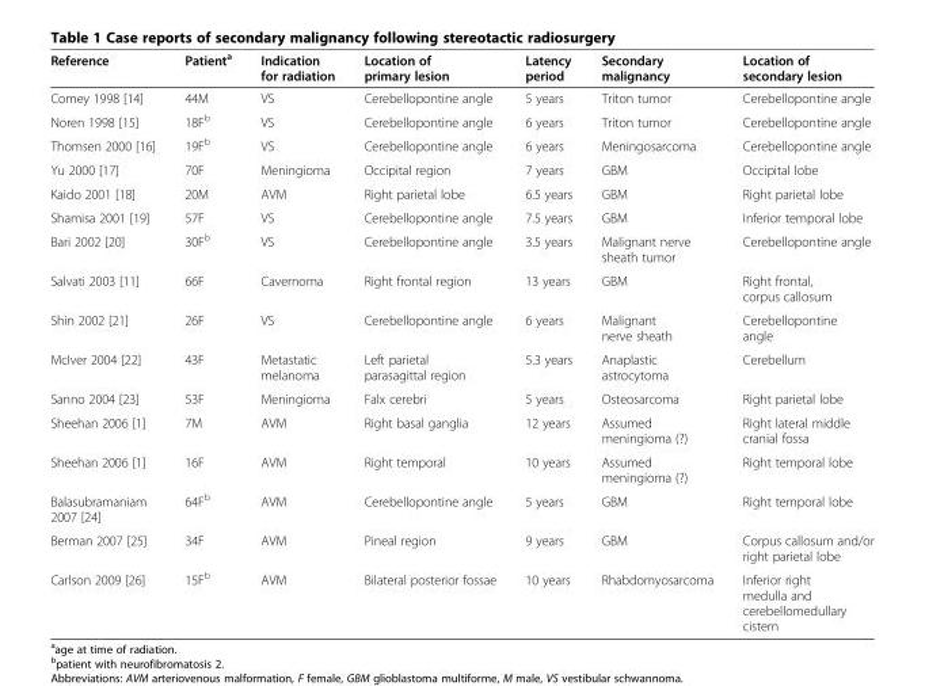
<table><thead><tr><td>Reference</td><td>Patient<sup>a</sup></td><td>Indication for radiation</td><td>Location of primary lesion</td><td>Latency period</td><td>Secondary malignancy</td><td>Location of secondary lesion</td></tr></thead><tbody><tr><td>Comey 1998 [14]</td><td>44M</td><td>VS</td><td>Cerebellopontine angle</td><td>5 years</td><td>Triton tumor</td><td>Cerebellopontine angle</td></tr><tr><td>Noren 1998 [15]</td><td>18F<sup>b</sup></td><td>VS</td><td>Cerebellopontine angle</td><td>6 years</td><td>Triton tumor</td><td>Cerebellopontine angle</td></tr><tr><td>Thomsen 2000 [16]</td><td>19F<sup>b</sup></td><td>VS</td><td>Cerebellopontine angle</td><td>6 years</td><td>Meningosarcoma</td><td>Cerebellopontine angle</td></tr><tr><td>Yu 2000 [17]</td><td>70F</td><td>Meningioma</td><td>Occipital region</td><td>7 years</td><td>GBM</td><td>Occipital lobe</td></tr><tr><td>Kaido 2001 [18]</td><td>20M</td><td>AVM</td><td>Right parietal lobe</td><td>6.5 years</td><td>GBM</td><td>Right parietal lobe</td></tr><tr><td>Shamisa 2001 [19]</td><td>57F</td><td>VS</td><td>Cerebellopontine angle</td><td>7.5 years</td><td>GBM</td><td>Inferior temporal lobe</td></tr><tr><td>Bari 2002 [20]</td><td>30F<sup>b</sup></td><td>VS</td><td>Cerebellopontine angle</td><td>3.5 years</td><td>Malignant nerve sheath tumor</td><td>Cerebellopontine angle</td></tr><tr><td>Salvati 2003 [11]</td><td>66F</td><td>Cavernoma</td><td>Right frontal region</td><td>13 years</td><td>GBM</td><td>Right frontal, corpus callosum</td></tr><tr><td>Shin 2002 [21]</td><td>26F</td><td>VS</td><td>Cerebellopontine angle</td><td>6 years</td><td>Malignant nerve sheath</td><td>Cerebellopontine angle</td></tr><tr><td>McIver 2004 [22]</td><td>43F</td><td>Metastatic melanoma</td><td>Left parietal parasagittal region</td><td>5.3 years</td><td>Anaplastic astrocytoma</td><td>Cerebellum</td></tr><tr><td>Sanno 2004 [23]</td><td>53F</td><td>Meningioma</td><td>Falx cerebri</td><td>5 years</td><td>Osteosarcoma</td><td>Right parietal lobe</td></tr><tr><td>Sheehan 2006 [1]</td><td>7M</td><td>AVM</td><td>Right basal ganglia</td><td>12 years</td><td>Assumed meningioma (?)</td><td>Right lateral middle cranial fossa</td></tr><tr><td>Sheehan 2006 [1]</td><td>16F</td><td>AVM</td><td>Right temporal</td><td>10 years</td><td>Assumed meningioma (?)</td><td>Right temporal lobe</td></tr><tr><td>Balasubramaniam 2007 [24]</td><td>64F<sup>b</sup></td><td>AVM</td><td>Cerebellopontine angle</td><td>5 years</td><td>GBM</td><td>Right temporal lobe</td></tr><tr><td>Berman 2007 [25]</td><td>34F</td><td>AVM</td><td>Pineal region</td><td>9 years</td><td>GBM</td><td>Corpus callosum and/or right parietal lobe</td></tr><tr><td>Carlson 2009 [26]</td><td>15F<sup>b</sup></td><td>AVM</td><td>Bilateral posterior fossae</td><td>10 years</td><td>Rhabdomyosarcoma</td><td>Inferior right medulla and cerebellomedullary cistern</td></tr></tbody></table>